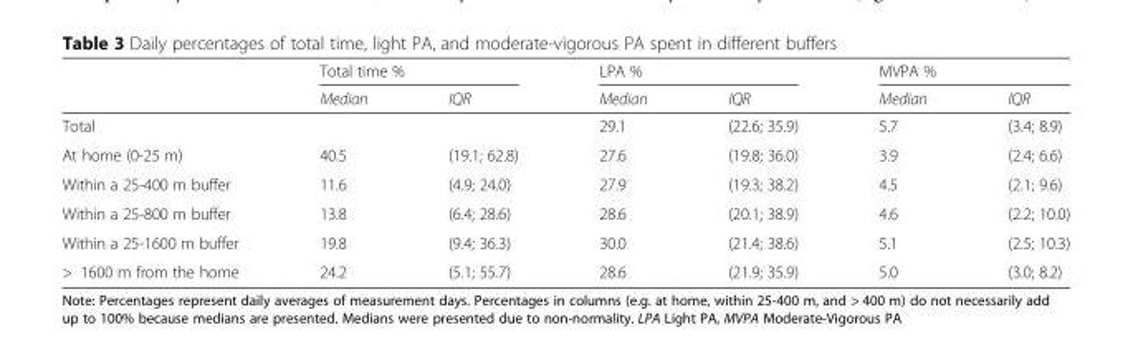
<table><thead><tr><td rowspan="2"></td><td colspan="2">Total time %</td><td colspan="2">LPA %</td><td colspan="2">MVPA %</td></tr><tr><td>Median</td><td>IQR</td><td>Median</td><td>IQR</td><td>Median</td><td>IQR</td></tr></thead><tbody><tr><td>Total</td><td></td><td></td><td>29.1</td><td>(22.6; 35.9)</td><td>5.7</td><td>(3.4; 8.9)</td></tr><tr><td>At home (0-25 m)</td><td>40.5</td><td>(19.1; 62.8)</td><td>27.6</td><td>(19.8; 36.0)</td><td>3.9</td><td>(2.4; 6.6)</td></tr><tr><td>Within a 25-400 m buffer</td><td>11.6</td><td>(4.9; 24.0)</td><td>27.9</td><td>(19.3; 38.2)</td><td>4.5</td><td>(2.1; 9.6)</td></tr><tr><td>Within a 25-800 m buffer</td><td>13.8</td><td>(6.4; 28.6)</td><td>28.6</td><td>(20.1; 38.9)</td><td>4.6</td><td>(2.2; 10.0)</td></tr><tr><td>Within a 25-1600 m buffer</td><td>19.8</td><td>(9.4; 36.3)</td><td>30.0</td><td>(21.4; 38.6)</td><td>5.1</td><td>(2.5; 10.3)</td></tr><tr><td>&gt; 1600 m from the home</td><td>24.2</td><td>(5.1; 55.7)</td><td>28.6</td><td>(21.9; 35.9)</td><td>5.0</td><td>(3.0; 8.2)</td></tr></tbody></table>